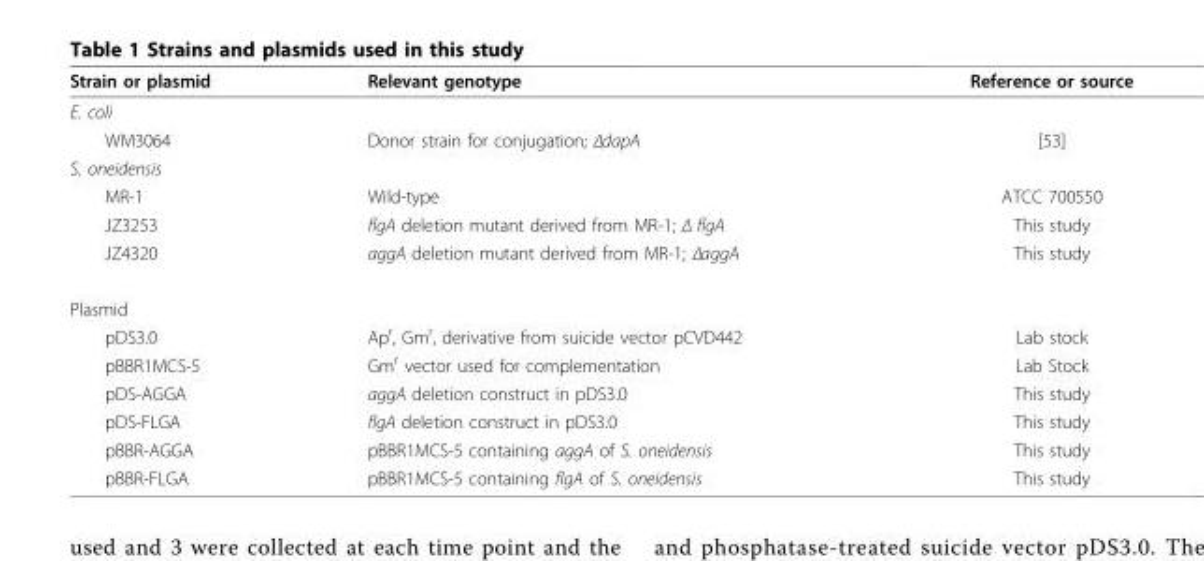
<table><thead><tr><td>Strain or plasmid</td><td>Relevant genotype</td><td>Reference or source</td></tr></thead><tbody><tr><td colspan="3">E. coli</td></tr><tr><td>WM3064</td><td>Donor strain for conjugation; ΔdapA</td><td>[53]</td></tr><tr><td colspan="3">S. oneidensis</td></tr><tr><td>MR-1</td><td>Wild-type</td><td>ATCC 700550</td></tr><tr><td>JZ3253</td><td>flgA deletion mutant derived from MR-1; Δ flgA</td><td>This study</td></tr><tr><td>JZ4320</td><td>aggA deletion mutant derived from MR-1; ΔaggA</td><td>This study</td></tr><tr><td colspan="3">Plasmid</td></tr><tr><td>pDS3.0</td><td>Ap<sup>r</sup>, Gm<sup>r</sup>, derivative from suicide vector pCVD442</td><td>Lab stock</td></tr><tr><td>pBBR1MCS-5</td><td>Gm<sup>r</sup> vector used for complementation</td><td>Lab Stock</td></tr><tr><td>pDS-AGGA</td><td>aggA deletion construct in pDS3.0</td><td>This study</td></tr><tr><td>pDS-FLGA</td><td>flgA deletion construct in pDS3.0</td><td>This study</td></tr><tr><td>pBBR-AGGA</td><td>pBBR1MCS-5 containing aggA of S. oneidensis</td><td>This study</td></tr><tr><td>pBBR-FLGA</td><td>pBBR1MCS-5 containing flgA of S. oneidensis</td><td>This study</td></tr></tbody></table>